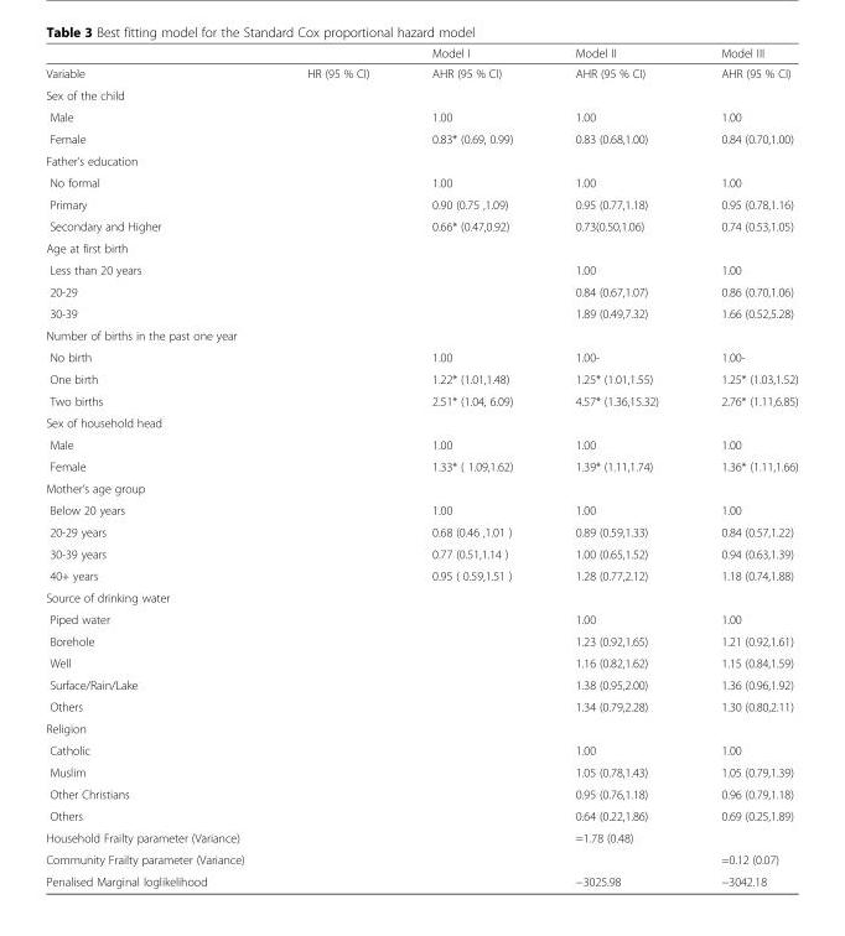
<table><thead><tr><td></td><td></td><td>Model I</td><td>Model II</td><td>Model III</td></tr></thead><tbody><tr><td>Variable</td><td>HR (95 % CI)</td><td>AHR (95 % CI)</td><td>AHR (95 % CI)</td><td>AHR (95 % CI)</td></tr><tr><td colspan="5">Sex of the child</td></tr><tr><td>Male</td><td></td><td>1.00</td><td>1.00</td><td>1.00</td></tr><tr><td>Female</td><td></td><td>0.83* (0.69, 0.99)</td><td>0.83 (0.68,1.00)</td><td>0.84 (0.70,1.00)</td></tr><tr><td colspan="5">Father’s education</td></tr><tr><td>No formal</td><td></td><td>1.00</td><td>1.00</td><td>1.00</td></tr><tr><td>Primary</td><td></td><td>0.90 (0.75 ,1.09)</td><td>0.95 (0.77,1.18)</td><td>0.95 (0.78,1.16)</td></tr><tr><td>Secondary and Higher</td><td></td><td>0.66* (0.47,0.92)</td><td>0.73(0.50,1.06)</td><td>0.74 (0.53,1.05)</td></tr><tr><td colspan="5">Age at first birth</td></tr><tr><td>Less than 20 years</td><td></td><td></td><td>1.00</td><td>1.00</td></tr><tr><td>20-29</td><td></td><td></td><td>0.84 (0.67,1.07)</td><td>0.86 (0.70,1.06)</td></tr><tr><td>30-39</td><td></td><td></td><td>1.89 (0.49,7.32)</td><td>1.66 (0.52,5.28)</td></tr><tr><td colspan="5">Number of births in the past one year</td></tr><tr><td>No birth</td><td></td><td>1.00</td><td>1.00-</td><td>1.00-</td></tr><tr><td>One birth</td><td></td><td>1.22* (1.01,1.48)</td><td>1.25* (1.01,1.55)</td><td>1.25* (1.03,1.52)</td></tr><tr><td>Two births</td><td></td><td>2.51* (1.04, 6.09)</td><td>4.57* (1.36,15.32)</td><td>2.76* (1.11,6.85)</td></tr><tr><td colspan="5">Sex of household head</td></tr><tr><td>Male</td><td></td><td>1.00</td><td>1.00</td><td>1.00</td></tr><tr><td>Female</td><td></td><td>1.33* ( 1.09,1.62)</td><td>1.39* (1.11,1.74)</td><td>1.36* (1.11,1.66)</td></tr><tr><td colspan="5">Mother’s age group</td></tr><tr><td>Below 20 years</td><td></td><td>1.00</td><td>1.00</td><td>1.00</td></tr><tr><td>20-29 years</td><td></td><td>0.68 (0.46 ,1.01 )</td><td>0.89 (0.59,1.33)</td><td>0.84 (0.57,1.22)</td></tr><tr><td>30-39 years</td><td></td><td>0.77 (0.51,1.14 )</td><td>1.00 (0.65,1.52)</td><td>0.94 (0.63,1.39)</td></tr><tr><td>40+ years</td><td></td><td>0.95 ( 0.59,1.51 )</td><td>1.28 (0.77,2.12)</td><td>1.18 (0.74,1.88)</td></tr><tr><td colspan="5">Source of drinking water</td></tr><tr><td>Piped water</td><td></td><td></td><td>1.00</td><td>1.00</td></tr><tr><td>Borehole</td><td></td><td></td><td>1.23 (0.92,1.65)</td><td>1.21 (0.92,1.61)</td></tr><tr><td>Well</td><td></td><td></td><td>1.16 (0.82,1.62)</td><td>1.15 (0.84,1.59)</td></tr><tr><td>Surface/Rain/Lake</td><td></td><td></td><td>1.38 (0.95,2.00)</td><td>1.36 (0.96,1.92)</td></tr><tr><td>Others</td><td></td><td></td><td>1.34 (0.79,2.28)</td><td>1.30 (0.80,2.11)</td></tr><tr><td colspan="5">Religion</td></tr><tr><td>Catholic</td><td></td><td></td><td>1.00</td><td>1.00</td></tr><tr><td>Muslim</td><td></td><td></td><td>1.05 (0.78,1.43)</td><td>1.05 (0.79,1.39)</td></tr><tr><td>Other Christians</td><td></td><td></td><td>0.95 (0.76,1.18)</td><td>0.96 (0.79,1.18)</td></tr><tr><td>Others</td><td></td><td></td><td>0.64 (0.22,1.86)</td><td>0.69 (0.25,1.89)</td></tr><tr><td>Household Frailty parameter (Variance)</td><td></td><td></td><td>=1.78 (0.48)</td><td></td></tr><tr><td>Community Frailty parameter (Variance)</td><td></td><td></td><td></td><td>=0.12 (0.07)</td></tr><tr><td>Penalised Marginal loglikelihood</td><td></td><td></td><td>−3025.98</td><td>−3042.18</td></tr></tbody></table>